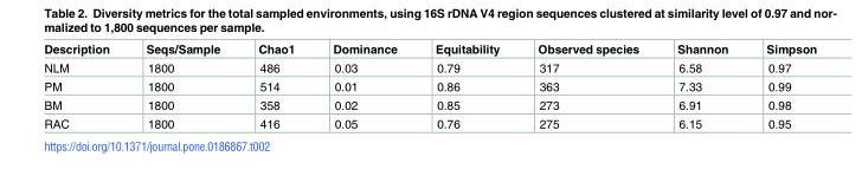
<table><thead><tr><td>Description</td><td>Seqs/Sample</td><td>Chao1</td><td>Dominance</td><td>Equitability</td><td>Observed species</td><td>Shannon</td><td>Simpson</td></tr></thead><tbody><tr><td>NLM</td><td>1800</td><td>486</td><td>0.03</td><td>0.79</td><td>317</td><td>6.58</td><td>0.97</td></tr><tr><td>PM</td><td>1800</td><td>514</td><td>0.01</td><td>0.86</td><td>363</td><td>7.33</td><td>0.99</td></tr><tr><td>BM</td><td>1800</td><td>358</td><td>0.02</td><td>0.85</td><td>273</td><td>6.91</td><td>0.98</td></tr><tr><td>RAC</td><td>1800</td><td>416</td><td>0.05</td><td>0.76</td><td>275</td><td>6.15</td><td>0.95</td></tr></tbody></table>